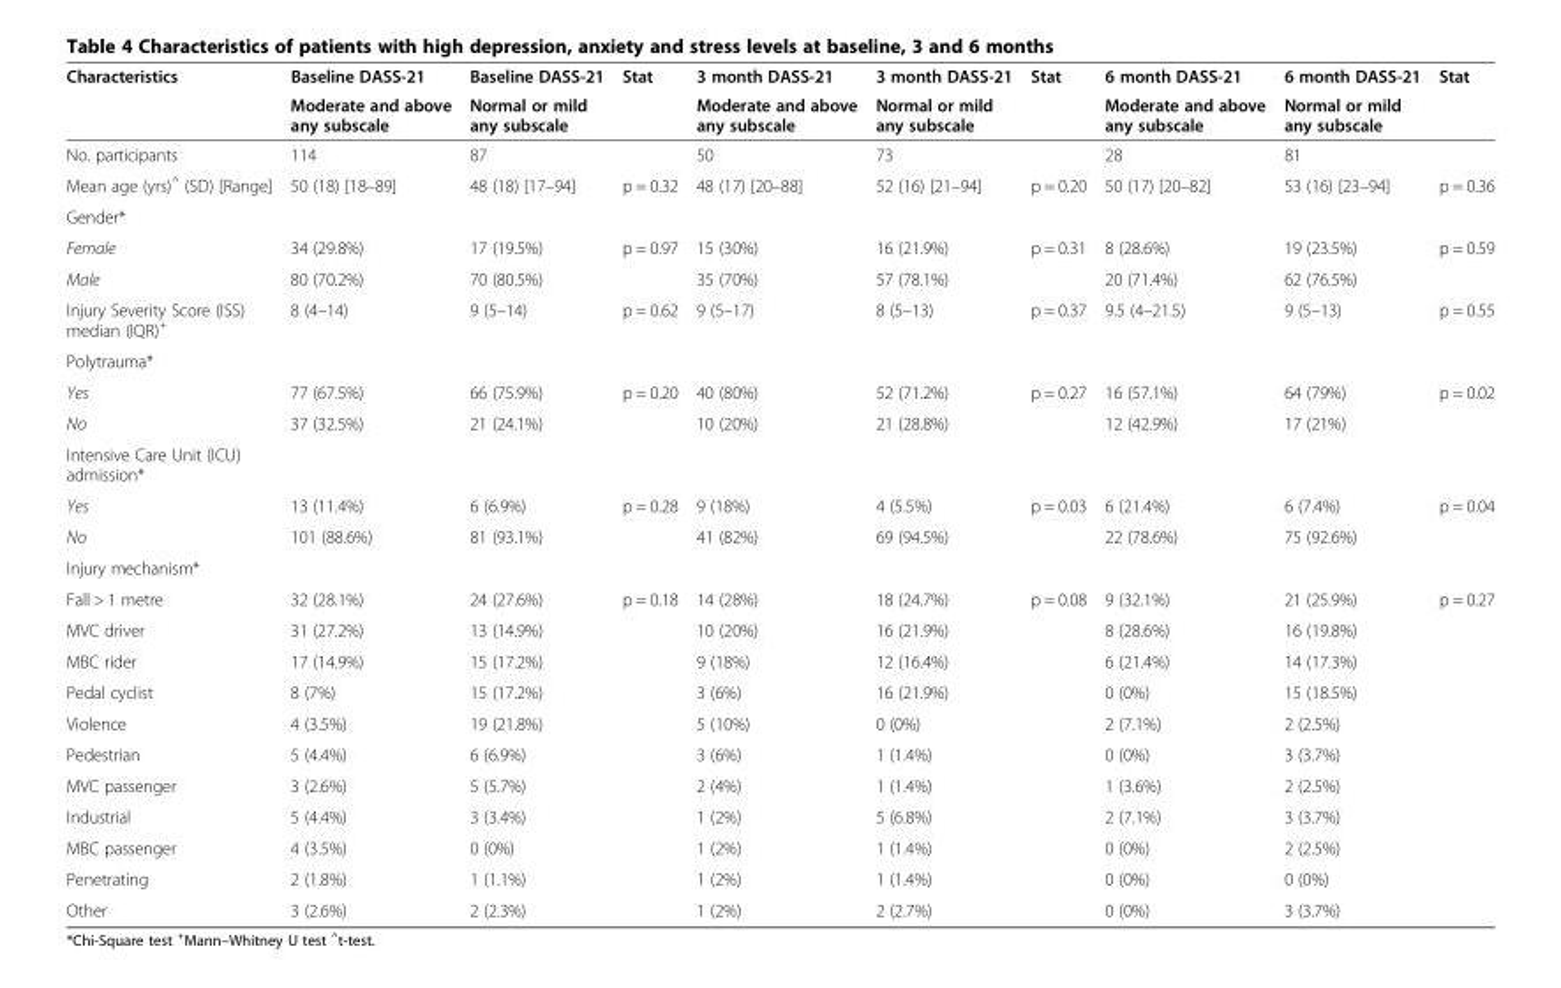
<table><thead><tr><td rowspan="2">Characteristics</td><td rowspan="2">Baseline DASS-21 Moderate and above any subscale</td><td rowspan="2">Baseline DASS-21 Normal or mild any subscale</td><td rowspan="2">Stat</td><td rowspan="2">3 month DASS-21 Moderate and above any subscale</td><td rowspan="2">3 month DASS-21 Normal or mild any subscale</td><td rowspan="2">Stat</td><td rowspan="2">6 month DASS-21 Moderate and above any subscale</td><td rowspan="2">6 month DASS-21 Normal or mild any subscale</td><td rowspan="2">Stat</td></tr><tr></tr></thead><tbody><tr><td>No. participants</td><td>114</td><td>87</td><td></td><td>50</td><td>73</td><td></td><td>28</td><td>81</td><td></td></tr><tr><td>Mean age (yrs)<sup>^</sup> (SD) [Range]</td><td>50 (18) [18–89]</td><td>48 (18) [17–94]</td><td>p = 0.32</td><td>48 (17) [20–88]</td><td>52 (16) [21–94]</td><td>p = 0.20</td><td>50 (17) [20–82]</td><td>53 (16) [23–94]</td><td>p = 0.36</td></tr><tr><td colspan="10">Gender*</td></tr><tr><td>Female</td><td>34 (29.8%)</td><td>17 (19.5%)</td><td>p = 0.97</td><td>15 (30%)</td><td>16 (21.9%)</td><td>p = 0.31</td><td>8 (28.6%)</td><td>19 (23.5%)</td><td>p = 0.59</td></tr><tr><td>Male</td><td>80 (70.2%)</td><td>70 (80.5%)</td><td></td><td>35 (70%)</td><td>57 (78.1%)</td><td></td><td>20 (71.4%)</td><td>62 (76.5%)</td><td></td></tr><tr><td>Injury Severity Score (ISS) median (IQR)<sup>+</sup></td><td>8 (4–14)</td><td>9 (5–14)</td><td>p = 0.62</td><td>9 (5–17)</td><td>8 (5–13)</td><td>p = 0.37</td><td>9.5 (4–21.5)</td><td>9 (5–13)</td><td>p = 0.55</td></tr><tr><td colspan="10">Polytrauma*</td></tr><tr><td>Yes</td><td>77 (67.5%)</td><td>66 (75.9%)</td><td>p = 0.20</td><td>40 (80%)</td><td>52 (71.2%)</td><td>p = 0.27</td><td>16 (57.1%)</td><td>64 (79%)</td><td>p = 0.02</td></tr><tr><td>No</td><td>37 (32.5%)</td><td>21 (24.1%)</td><td></td><td>10 (20%)</td><td>21 (28.8%)</td><td></td><td>12 (42.9%)</td><td>17 (21%)</td><td></td></tr><tr><td colspan="10">Intensive Care Unit (ICU) admission*</td></tr><tr><td>Yes</td><td>13 (11.4%)</td><td>6 (6.9%)</td><td>p = 0.28</td><td>9 (18%)</td><td>4 (5.5%)</td><td>p = 0.03</td><td>6 (21.4%)</td><td>6 (7.4%)</td><td>p = 0.04</td></tr><tr><td>No</td><td>101 (88.6%)</td><td>81 (93.1%)</td><td></td><td>41 (82%)</td><td>69 (94.5%)</td><td></td><td>22 (78.6%)</td><td>75 (92.6%)</td><td></td></tr><tr><td colspan="10">Injury mechanism*</td></tr><tr><td>Fall &gt; 1 metre</td><td>32 (28.1%)</td><td>24 (27.6%)</td><td>p = 0.18</td><td>14 (28%)</td><td>18 (24.7%)</td><td>p = 0.08</td><td>9 (32.1%)</td><td>21 (25.9%)</td><td>p = 0.27</td></tr><tr><td>MVC driver</td><td>31 (27.2%)</td><td>13 (14.9%)</td><td></td><td>10 (20%)</td><td>16 (21.9%)</td><td></td><td>8 (28.6%)</td><td>16 (19.8%)</td><td></td></tr><tr><td>MBC rider</td><td>17 (14.9%)</td><td>15 (17.2%)</td><td></td><td>9 (18%)</td><td>12 (16.4%)</td><td></td><td>6 (21.4%)</td><td>14 (17.3%)</td><td></td></tr><tr><td>Pedal cyclist</td><td>8 (7%)</td><td>15 (17.2%)</td><td></td><td>3 (6%)</td><td>16 (21.9%)</td><td></td><td>0 (0%)</td><td>15 (18.5%)</td><td></td></tr><tr><td>Violence</td><td>4 (3.5%)</td><td>19 (21.8%)</td><td></td><td>5 (10%)</td><td>0 (0%)</td><td></td><td>2 (7.1%)</td><td>2 (2.5%)</td><td></td></tr><tr><td>Pedestrian</td><td>5 (4.4%)</td><td>6 (6.9%)</td><td></td><td>3 (6%)</td><td>1 (1.4%)</td><td></td><td>0 (0%)</td><td>3 (3.7%)</td><td></td></tr><tr><td>MVC passenger</td><td>3 (2.6%)</td><td>5 (5.7%)</td><td></td><td>2 (4%)</td><td>1 (1.4%)</td><td></td><td>1 (3.6%)</td><td>2 (2.5%)</td><td></td></tr><tr><td>Industrial</td><td>5 (4.4%)</td><td>3 (3.4%)</td><td></td><td>1 (2%)</td><td>5 (6.8%)</td><td></td><td>2 (7.1%)</td><td>3 (3.7%)</td><td></td></tr><tr><td>MBC passenger</td><td>4 (3.5%)</td><td>0 (0%)</td><td></td><td>1 (2%)</td><td>1 (1.4%)</td><td></td><td>0 (0%)</td><td>2 (2.5%)</td><td></td></tr><tr><td>Penetrating</td><td>2 (1.8%)</td><td>1 (1.1%)</td><td></td><td>1 (2%)</td><td>1 (1.4%)</td><td></td><td>0 (0%)</td><td>0 (0%)</td><td></td></tr><tr><td>Other</td><td>3 (2.6%)</td><td>2 (2.3%)</td><td></td><td>1 (2%)</td><td>2 (2.7%)</td><td></td><td>0 (0%)</td><td>3 (3.7%)</td><td></td></tr></tbody></table>